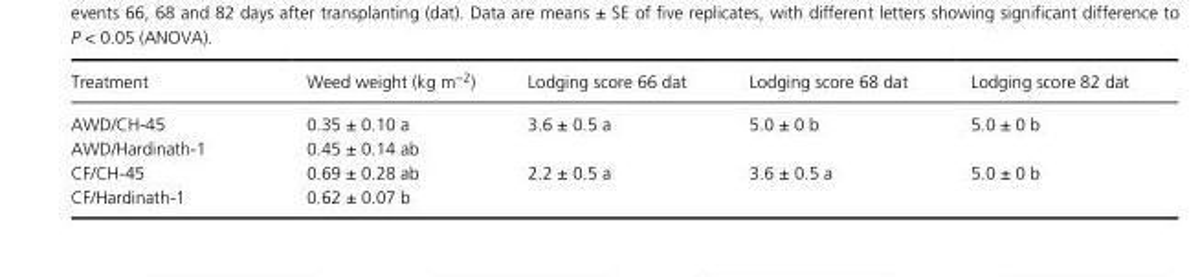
<table><thead><tr><td>Treatment</td><td>Weed weight (kg m <sup>−2</sup> )</td><td>Lodging score 66 dat</td><td>Lodging score 68 dat</td><td>Lodging score 82 dat</td></tr></thead><tbody><tr><td>AWD/CH- 45</td><td>0.35 ± 0.10 a</td><td>3.6 ± 0.5 a</td><td>5.0 ± 0 b</td><td>5.0 ± 0 b</td></tr><tr><td>AWD/Hardinath- 1</td><td>0.45 ± 0.14 ab</td><td></td><td></td><td></td></tr><tr><td>CF/CH- 45</td><td>0.69 ± 0.28 ab</td><td>2.2 ± 0.5 a</td><td>3.6 ± 0.5 a</td><td>5.0 ± 0 b</td></tr><tr><td>CF/Hardinath- 1</td><td>0.62 ± 0.07 b</td><td></td><td></td><td></td></tr></tbody></table>